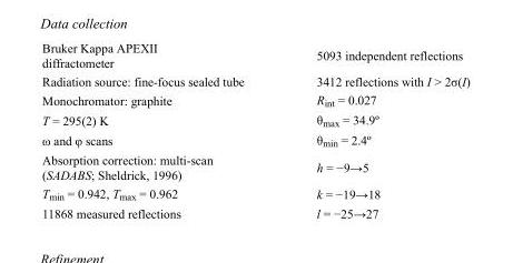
<table><tbody><tr><td>Bruker Kappa APEXII diffractometer</td><td>5093 independent reflections</td></tr><tr><td>Radiation source: fine-focus sealed tube</td><td>3412 reflections with I &gt; 2σ(I)</td></tr><tr><td>Monochromator: graphite</td><td>R<sub>int</sub> = 0.027</td></tr><tr><td>T = 295(2) K</td><td>θ<sub>max</sub> = 34.9º</td></tr><tr><td>ω and φ scans</td><td>θ<sub>min</sub> = 2.4º</td></tr><tr><td>Absorption correction: multi-scan (SADABS; Sheldrick, 1996)</td><td>h = −9→5</td></tr><tr><td>T<sub>min</sub> = 0.942, T<sub>max</sub> = 0.962</td><td>k = −19→18</td></tr><tr><td>11868 measured reflections</td><td>l = −25→27</td></tr></tbody></table>